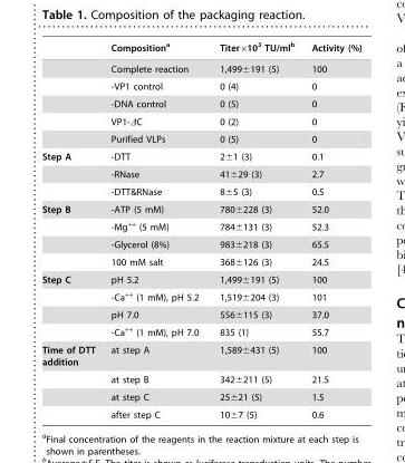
<table><thead><tr><td></td><td>Composition<sup>a</sup></td><td>Titer×10<sup>3</sup> TU/ml<sup>b</sup></td><td>Activity (%)</td></tr></thead><tbody><tr><td></td><td>Complete reaction</td><td>1,499±191 (5)</td><td>100</td></tr><tr><td></td><td>-VP1 control</td><td>0 (4)</td><td>0</td></tr><tr><td></td><td>-DNA control</td><td>0 (5)</td><td>0</td></tr><tr><td></td><td>VP1-ΔC</td><td>0 (2)</td><td>0</td></tr><tr><td></td><td>Purified VLPs</td><td>0 (5)</td><td>0</td></tr><tr><td rowspan="3">Step A</td><td>-DTT</td><td>2±1 (3)</td><td>0.1</td></tr><tr><td>-RNase</td><td>41±29 (3)</td><td>2.7</td></tr><tr><td>-DTT&amp;RNase</td><td>8±5 (3)</td><td>0.5</td></tr><tr><td rowspan="4">Step B</td><td>-ATP (5 mM)</td><td>780±228 (3)</td><td>52.0</td></tr><tr><td>-Mg<sup>++</sup> (5 mM)</td><td>784±131 (3)</td><td>52.3</td></tr><tr><td>-Glycerol (8%)</td><td>983±218 (3)</td><td>65.5</td></tr><tr><td>100 mM salt</td><td>368±126 (3)</td><td>24.5</td></tr><tr><td rowspan="4">Step C</td><td>pH 5.2</td><td>1,499±191 (5)</td><td>100</td></tr><tr><td>-Ca<sup>++</sup> (1 mM), pH 5.2</td><td>1,519±204 (3)</td><td>101</td></tr><tr><td>pH 7.0</td><td>556±115 (3)</td><td>37.0</td></tr><tr><td>-Ca<sup>++</sup> (1 mM), pH 7.0</td><td>835 (1)</td><td>55.7</td></tr><tr><td rowspan="4">Time of DTT addition</td><td>at step A</td><td>1,589±431 (5)</td><td>100</td></tr><tr><td>at step B</td><td>342±211 (5)</td><td>21.5</td></tr><tr><td>at step C</td><td>25±21 (5)</td><td>1.5</td></tr><tr><td>after step C</td><td>10±7 (5)</td><td>0.6</td></tr></tbody></table>